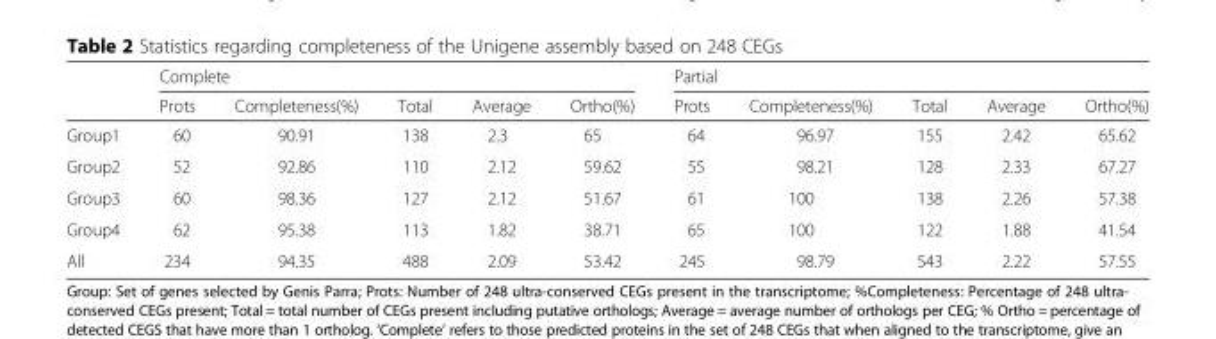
<table><thead><tr><td rowspan="2"></td><td colspan="5">Complete</td><td colspan="5">Partial</td></tr><tr><td>Prots</td><td>Completeness(%)</td><td>Total</td><td>Average</td><td>Ortho(%)</td><td>Prots</td><td>Completeness(%)</td><td>Total</td><td>Average</td><td>Ortho(%)</td></tr></thead><tbody><tr><td>Group1</td><td>60</td><td>90.91</td><td>138</td><td>2.3</td><td>65</td><td>64</td><td>96.97</td><td>155</td><td>2.42</td><td>65.62</td></tr><tr><td>Group2</td><td>52</td><td>92.86</td><td>110</td><td>2.12</td><td>59.62</td><td>55</td><td>98.21</td><td>128</td><td>2.33</td><td>67.27</td></tr><tr><td>Group3</td><td>60</td><td>98.36</td><td>127</td><td>2.12</td><td>51.67</td><td>61</td><td>100</td><td>138</td><td>2.26</td><td>57.38</td></tr><tr><td>Group4</td><td>62</td><td>95.38</td><td>113</td><td>1.82</td><td>38.71</td><td>65</td><td>100</td><td>122</td><td>1.88</td><td>41.54</td></tr><tr><td>All</td><td>234</td><td>94.35</td><td>488</td><td>2.09</td><td>53.42</td><td>245</td><td>98.79</td><td>543</td><td>2.22</td><td>57.55</td></tr></tbody></table>